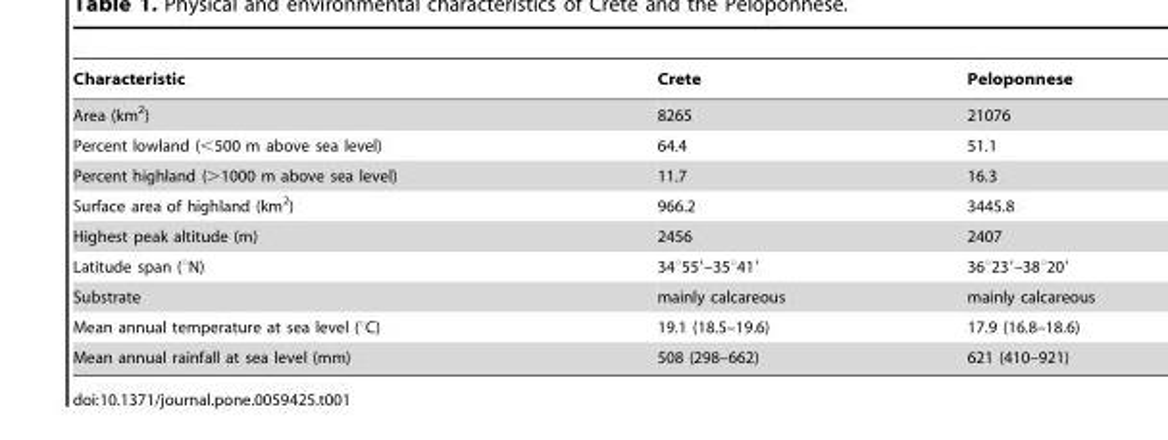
<table><thead><tr><td>Characteristic</td><td>Crete</td><td>Peloponnese</td></tr></thead><tbody><tr><td>Area (km<sup>2</sup>)</td><td>8265</td><td>21076</td></tr><tr><td>Percent lowland (&lt;500 m above sea level)</td><td>64.4</td><td>51.1</td></tr><tr><td>Percent highland (&gt;1000 m above sea level)</td><td>11.7</td><td>16.3</td></tr><tr><td>Surface area of highland (km<sup>2</sup>)</td><td>966.2</td><td>3445.8</td></tr><tr><td>Highest peak altitude (m)</td><td>2456</td><td>2407</td></tr><tr><td>Latitude span (°N)</td><td>34°55′–35°41′</td><td>36°23′–38°20′</td></tr><tr><td>Substrate</td><td>mainly calcareous</td><td>mainly calcareous</td></tr><tr><td>Mean annual temperature at sea level (°C)</td><td>19.1 (18.5–19.6)</td><td>17.9 (16.8–18.6)</td></tr><tr><td>Mean annual rainfall at sea level (mm)</td><td>508 (298–662)</td><td>621 (410–921)</td></tr></tbody></table>